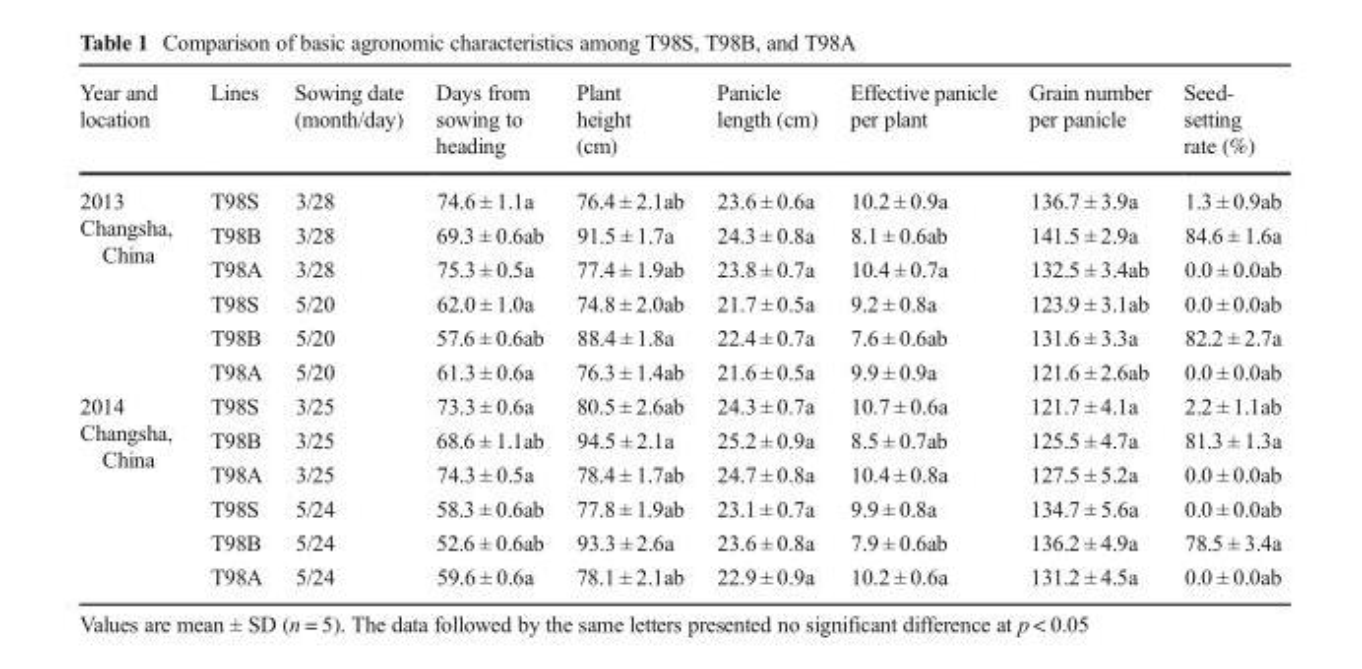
<table><thead><tr><td>Year and location</td><td>Lines</td><td>Sowing date (month/day)</td><td>Days from sowing to heading</td><td>Plant height (cm)</td><td>Panicle length (cm)</td><td>Effective panicle per plant</td><td>Grain number per panicle</td><td>Seed- setting rate (%)</td></tr></thead><tbody><tr><td rowspan="6">2013 Changsha, China</td><td>T98S</td><td>3/28</td><td>74.6 ± 1.1a</td><td>76.4 ± 2.1ab</td><td>23.6 ± 0.6a</td><td>10.2 ± 0.9a</td><td>136.7 ± 3.9a</td><td>1.3 ± 0.9ab</td></tr><tr><td>T98B</td><td>3/28</td><td>69.3 ± 0.6ab</td><td>91.5 ± 1.7a</td><td>24.3 ± 0.8a</td><td>8.1 ± 0.6ab</td><td>141.5 ± 2.9a</td><td>84.6 ± 1.6a</td></tr><tr><td>T98A</td><td>3/28</td><td>75.3 ± 0.5a</td><td>77.4 ± 1.9ab</td><td>23.8 ± 0.7a</td><td>10.4 ± 0.7a</td><td>132.5 ± 3.4ab</td><td>0.0 ± 0.0ab</td></tr><tr><td>T98S</td><td>5/20</td><td>62.0 ± 1.0a</td><td>74.8 ± 2.0ab</td><td>21.7 ± 0.5a</td><td>9.2 ± 0.8a</td><td>123.9 ± 3.1ab</td><td>0.0 ± 0.0ab</td></tr><tr><td>T98B</td><td>5/20</td><td>57.6 ± 0.6ab</td><td>88.4 ± 1.8a</td><td>22.4 ± 0.7a</td><td>7.6 ± 0.6ab</td><td>131.6 ± 3.3a</td><td>82.2 ± 2.7a</td></tr><tr><td>T98A</td><td>5/20</td><td>61.3 ± 0.6a</td><td>76.3 ± 1.4ab</td><td>21.6 ± 0.5a</td><td>9.9 ± 0.9a</td><td>121.6 ± 2.6ab</td><td>0.0 ± 0.0ab</td></tr><tr><td rowspan="6">2014 Changsha, China</td><td>T98S</td><td>3/25</td><td>73.3 ± 0.6a</td><td>80.5 ± 2.6ab</td><td>24.3 ± 0.7a</td><td>10.7 ± 0.6a</td><td>121.7 ± 4.1a</td><td>2.2 ± 1.1ab</td></tr><tr><td>T98B</td><td>3/25</td><td>68.6 ± 1.1ab</td><td>94.5 ± 2.1a</td><td>25.2 ± 0.9a</td><td>8.5 ± 0.7ab</td><td>125.5 ± 4.7a</td><td>81.3 ± 1.3a</td></tr><tr><td>T98A</td><td>3/25</td><td>74.3 ± 0.5a</td><td>78.4 ± 1.7ab</td><td>24.7 ± 0.8a</td><td>10.4 ± 0.8a</td><td>127.5 ± 5.2a</td><td>0.0 ± 0.0ab</td></tr><tr><td>T98S</td><td>5/24</td><td>58.3 ± 0.6ab</td><td>77.8 ± 1.9ab</td><td>23.1 ± 0.7a</td><td>9.9 ± 0.8a</td><td>134.7 ± 5.6a</td><td>0.0 ± 0.0ab</td></tr><tr><td>T98B</td><td>5/24</td><td>52.6 ± 0.6ab</td><td>93.3 ± 2.6a</td><td>23.6 ± 0.8a</td><td>7.9 ± 0.6ab</td><td>136.2 ± 4.9a</td><td>78.5 ± 3.4a</td></tr><tr><td>T98A</td><td>5/24</td><td>59.6 ± 0.6a</td><td>78.1 ± 2.1ab</td><td>22.9 ± 0.9a</td><td>10.2 ± 0.6a</td><td>131.2 ± 4.5a</td><td>0.0 ± 0.0ab</td></tr></tbody></table>